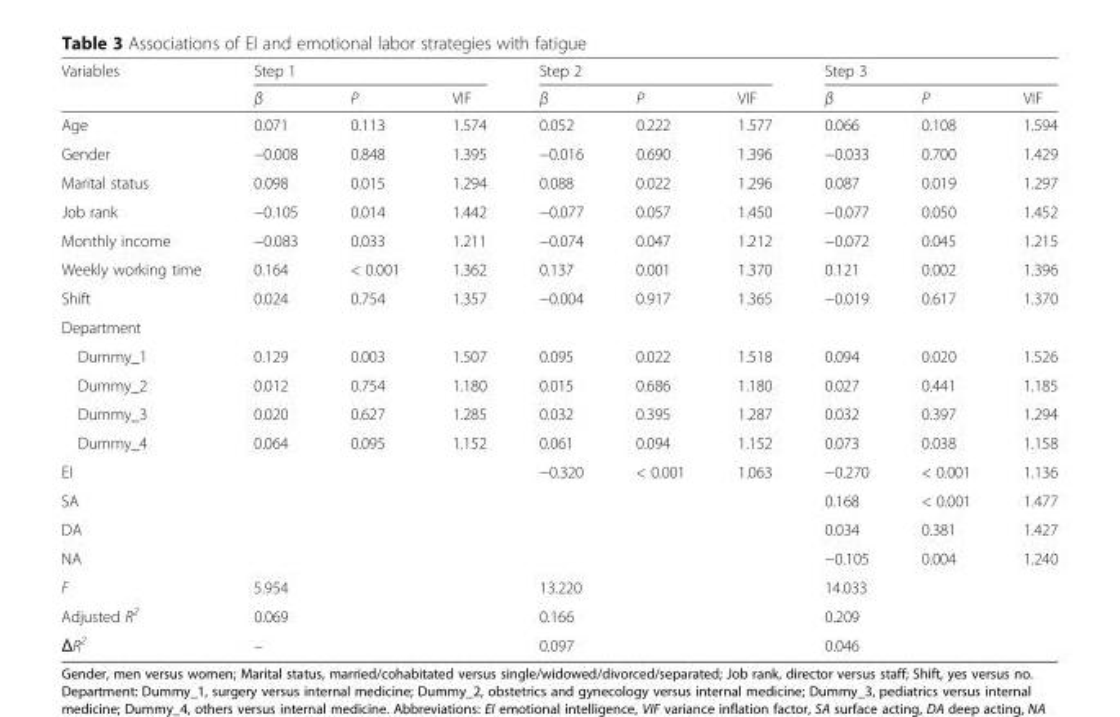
<table><thead><tr><td rowspan="2">Variables</td><td colspan="3">Step 1</td><td colspan="3">Step 2</td><td colspan="3">Step 3</td></tr><tr><td>β</td><td>P</td><td>VIF</td><td>β</td><td>P</td><td>VIF</td><td>β</td><td>P</td><td>VIF</td></tr></thead><tbody><tr><td>Age</td><td>0.071</td><td>0.113</td><td>1.574</td><td>0.052</td><td>0.222</td><td>1.577</td><td>0.066</td><td>0.108</td><td>1.594</td></tr><tr><td>Gender</td><td>−0.008</td><td>0.848</td><td>1.395</td><td>−0.016</td><td>0.690</td><td>1.396</td><td>−0.033</td><td>0.700</td><td>1.429</td></tr><tr><td>Marital status</td><td>0.098</td><td>0.015</td><td>1.294</td><td>0.088</td><td>0.022</td><td>1.296</td><td>0.087</td><td>0.019</td><td>1.297</td></tr><tr><td>Job rank</td><td>−0.105</td><td>0.014</td><td>1.442</td><td>−0.077</td><td>0.057</td><td>1.450</td><td>−0.077</td><td>0.050</td><td>1.452</td></tr><tr><td>Monthly income</td><td>−0.083</td><td>0.033</td><td>1.211</td><td>−0.074</td><td>0.047</td><td>1.212</td><td>−0.072</td><td>0.045</td><td>1.215</td></tr><tr><td>Weekly working time</td><td>0.164</td><td>&lt; 0.001</td><td>1.362</td><td>0.137</td><td>0.001</td><td>1.370</td><td>0.121</td><td>0.002</td><td>1.396</td></tr><tr><td>Shift</td><td>0.024</td><td>0.754</td><td>1.357</td><td>−0.004</td><td>0.917</td><td>1.365</td><td>−0.019</td><td>0.617</td><td>1.370</td></tr><tr><td colspan="10">Department</td></tr><tr><td>Dummy_1</td><td>0.129</td><td>0.003</td><td>1.507</td><td>0.095</td><td>0.022</td><td>1.518</td><td>0.094</td><td>0.020</td><td>1.526</td></tr><tr><td>Dummy_2</td><td>0.012</td><td>0.754</td><td>1.180</td><td>0.015</td><td>0.686</td><td>1.180</td><td>0.027</td><td>0.441</td><td>1.185</td></tr><tr><td>Dummy_3</td><td>0.020</td><td>0.627</td><td>1.285</td><td>0.032</td><td>0.395</td><td>1.287</td><td>0.032</td><td>0.397</td><td>1.294</td></tr><tr><td>Dummy_4</td><td>0.064</td><td>0.095</td><td>1.152</td><td>0.061</td><td>0.094</td><td>1.152</td><td>0.073</td><td>0.038</td><td>1.158</td></tr><tr><td>EI</td><td></td><td></td><td></td><td>−0.320</td><td>&lt; 0.001</td><td>1.063</td><td>−0.270</td><td>&lt; 0.001</td><td>1.136</td></tr><tr><td>SA</td><td></td><td></td><td></td><td></td><td></td><td></td><td>0.168</td><td>&lt; 0.001</td><td>1.477</td></tr><tr><td>DA</td><td></td><td></td><td></td><td></td><td></td><td></td><td>0.034</td><td>0.381</td><td>1.427</td></tr><tr><td>NA</td><td></td><td></td><td></td><td></td><td></td><td></td><td>−0.105</td><td>0.004</td><td>1.240</td></tr><tr><td>F</td><td>5.954</td><td></td><td></td><td>13.220</td><td></td><td></td><td>14.033</td><td></td><td></td></tr><tr><td>Adjusted R<sup>2</sup></td><td>0.069</td><td></td><td></td><td>0.166</td><td></td><td></td><td>0.209</td><td></td><td></td></tr><tr><td>ΔR<sup>2</sup></td><td>–</td><td></td><td></td><td>0.097</td><td></td><td></td><td>0.046</td><td></td><td></td></tr></tbody></table>